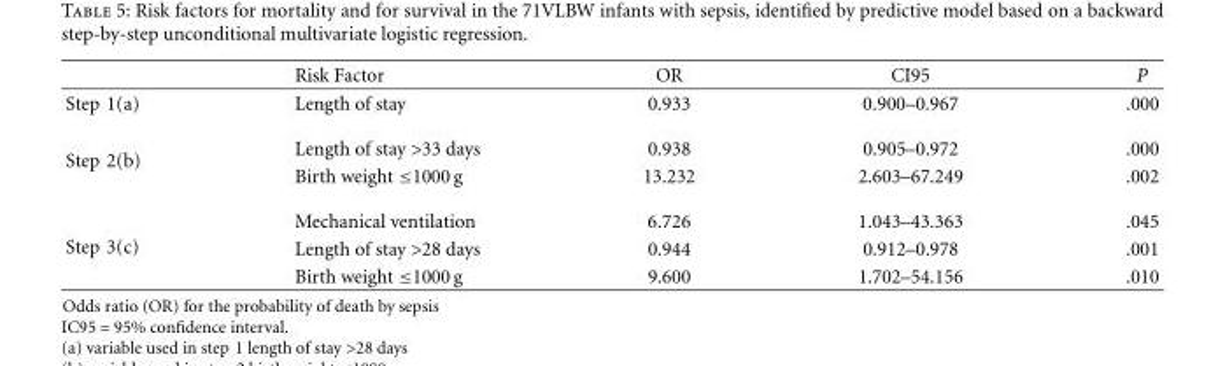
<table><thead><tr><td></td><td>Risk Factor</td><td>OR</td><td>CI95</td><td>P</td></tr></thead><tbody><tr><td>Step 1(a)</td><td>Length of stay</td><td>0.933</td><td>0.900–0.967</td><td>.000</td></tr><tr><td rowspan="2">Step 2(b)</td><td>Length of stay &gt;33 days</td><td>0.938</td><td>0.905–0.972</td><td>.000</td></tr><tr><td>Birth weight ≤1000 g</td><td>13.232</td><td>2.603–67.249</td><td>.002</td></tr><tr><td rowspan="3">Step 3(c)</td><td>Mechanical ventilation</td><td>6.726</td><td>1.043–43.363</td><td>.045</td></tr><tr><td>Length of stay &gt;28 days</td><td>0.944</td><td>0.912–0.978</td><td>.001</td></tr><tr><td>Birth weight ≤1000 g</td><td>9.600</td><td>1.702–54.156</td><td>.010</td></tr></tbody></table>